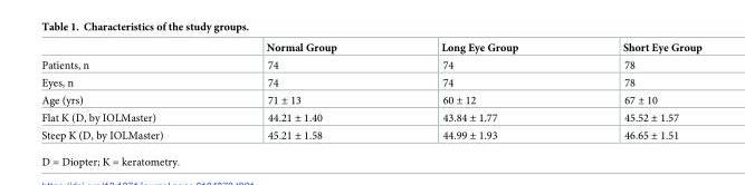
<table><thead><tr><td></td><td>Normal Group</td><td>Long Eye Group</td><td>Short Eye Group</td></tr></thead><tbody><tr><td>Patients, n</td><td>74</td><td>74</td><td>78</td></tr><tr><td>Eyes, n</td><td>74</td><td>74</td><td>78</td></tr><tr><td>Age (yrs)</td><td>71 ± 13</td><td>60 ± 12</td><td>67 ± 10</td></tr><tr><td>Flat K (D, by IOLMaster)</td><td>44.21 ± 1.40</td><td>43.84 ± 1.77</td><td>45.52 ± 1.57</td></tr><tr><td>Steep K (D, by IOLMaster)</td><td>45.21 ± 1.58</td><td>44.99 ± 1.93</td><td>46.65 ± 1.51</td></tr></tbody></table>